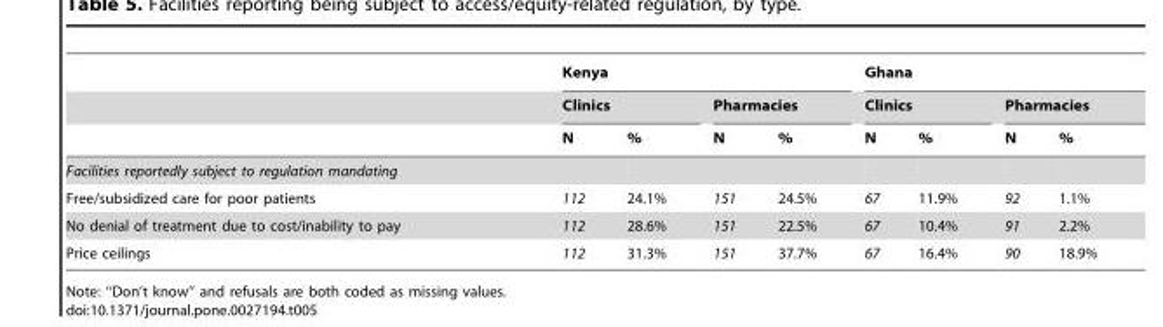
<table><thead><tr><td rowspan="3"></td><td colspan="4">Kenya</td><td colspan="4">Ghana</td></tr><tr><td colspan="2">Clinics</td><td colspan="2">Pharmacies</td><td colspan="2">Clinics</td><td colspan="2">Pharmacies</td></tr><tr><td>N</td><td>%</td><td>N</td><td>%</td><td>N</td><td>%</td><td>N</td><td>%</td></tr></thead><tbody><tr><td colspan="9">Facilities reportedly subject to regulation mandating</td></tr><tr><td>Free/subsidized care for poor patients</td><td>112</td><td>24.1%</td><td>151</td><td>24.5%</td><td>67</td><td>11.9%</td><td>92</td><td>1.1%</td></tr><tr><td>No denial of treatment due to cost/inability to pay</td><td>112</td><td>28.6%</td><td>151</td><td>22.5%</td><td>67</td><td>10.4%</td><td>91</td><td>2.2%</td></tr><tr><td>Price ceilings</td><td>112</td><td>31.3%</td><td>151</td><td>37.7%</td><td>67</td><td>16.4%</td><td>90</td><td>18.9%</td></tr></tbody></table>